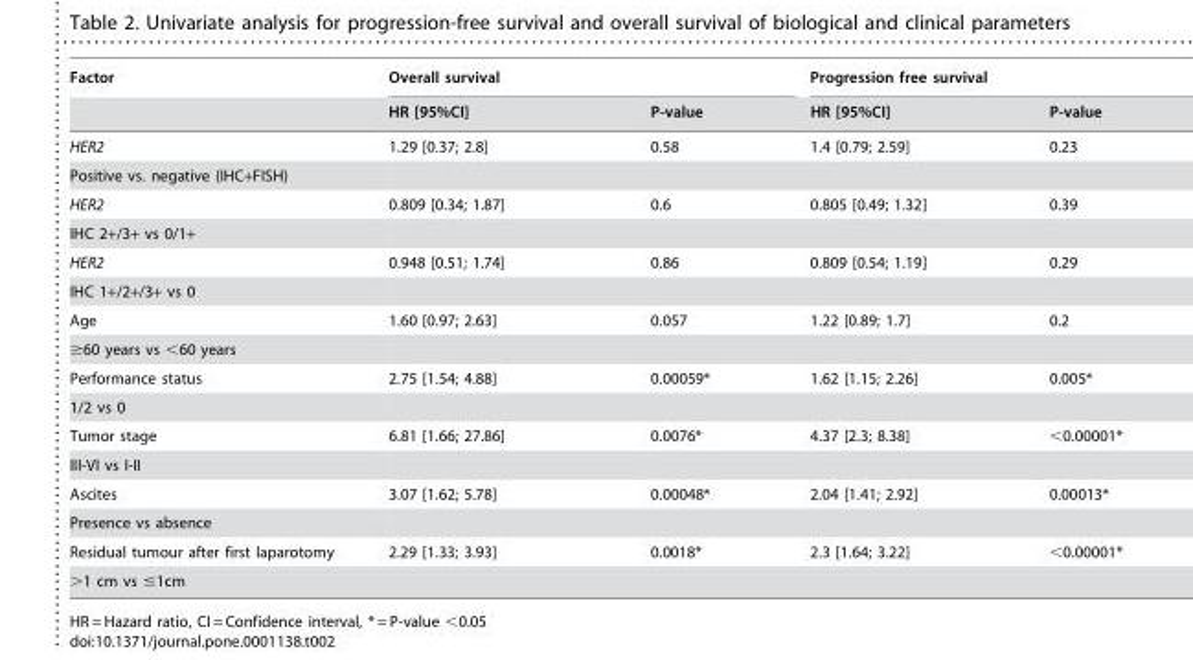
<table><thead><tr><td rowspan="2">Factor</td><td colspan="2">Overall survival</td><td colspan="2">Progression free survival</td></tr><tr><td>HR [95%CI]</td><td>P-value</td><td>HR [95%CI]</td><td>P-value</td></tr></thead><tbody><tr><td>HER2</td><td>1.29 [0.37; 2.8]</td><td>0.58</td><td>1.4 [0.79; 2.59]</td><td>0.23</td></tr><tr><td colspan="5">Positive vs. negative (IHC+FISH)</td></tr><tr><td>HER2</td><td>0.809 [0.34; 1.87]</td><td>0.6</td><td>0.805 [0.49; 1.32]</td><td>0.39</td></tr><tr><td colspan="5">IHC 2+/3+ vs 0/1+</td></tr><tr><td>HER2</td><td>0.948 [0.51; 1.74]</td><td>0.86</td><td>0.809 [0.54; 1.19]</td><td>0.29</td></tr><tr><td colspan="5">IHC 1+/2+/3+ vs 0</td></tr><tr><td>Age</td><td>1.60 [0.97; 2.63]</td><td>0.057</td><td>1.22 [0.89; 1.7]</td><td>0.2</td></tr><tr><td colspan="5">≥60 years vs &lt;60 years</td></tr><tr><td>Performance status</td><td>2.75 [1.54; 4.88]</td><td>0.00059*</td><td>1.62 [1.15; 2.26]</td><td>0.005*</td></tr><tr><td colspan="5">1/2 vs 0</td></tr><tr><td>Tumor stage</td><td>6.81 [1.66; 27.86]</td><td>0.0076*</td><td>4.37 [2.3; 8.38]</td><td>&lt;0.00001*</td></tr><tr><td colspan="5">III-VI vs I-II</td></tr><tr><td>Ascites</td><td>3.07 [1.62; 5.78]</td><td>0.00048*</td><td>2.04 [1.41; 2.92]</td><td>0.00013*</td></tr><tr><td colspan="5">Presence vs absence</td></tr><tr><td>Residual tumour after first laparotomy</td><td>2.29 [1.33; 3.93]</td><td>0.0018*</td><td>2.3 [1.64; 3.22]</td><td>&lt;0.00001*</td></tr><tr><td>&gt;1 cm vs ≤1cm</td><td></td><td></td><td></td><td></td></tr></tbody></table>